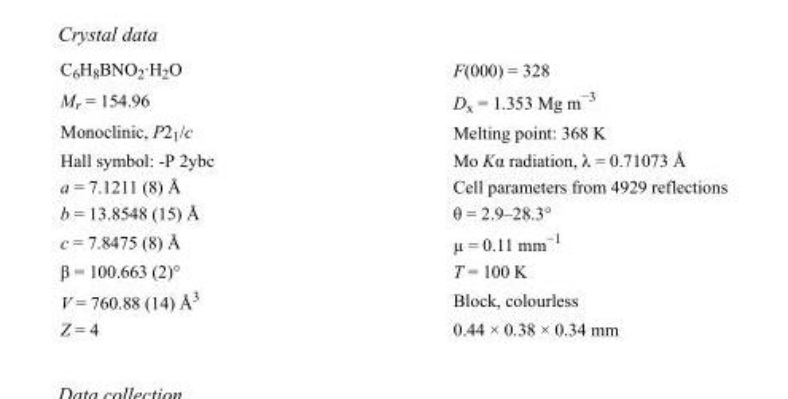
<table><tbody><tr><td>C<sub>6</sub>H<sub>8</sub>BNO<sub>2</sub>·H<sub>2</sub>O</td><td>F(000) = 328</td></tr><tr><td>M<sub>r</sub> = 154.96</td><td>D<sub>x</sub> = 1.353 Mg m<sup>−3</sup></td></tr><tr><td>Monoclinic, P2<sub>1</sub>/c</td><td>Melting point: 368 K</td></tr><tr><td>Hall symbol: -P 2ybc</td><td>Mo Kα radiation, λ = 0.71073 Å</td></tr><tr><td>a = 7.1211 (8) Å</td><td>Cell parameters from 4929 reflections</td></tr><tr><td>b = 13.8548 (15) Å</td><td>θ = 2.9–28.3°</td></tr><tr><td>c = 7.8475 (8) Å</td><td>µ = 0.11 mm<sup>−1</sup></td></tr><tr><td>β = 100.663 (2)°</td><td>T = 100 K</td></tr><tr><td>V = 760.88 (14) Å<sup>3</sup></td><td>Block, colourless</td></tr><tr><td>Z = 4</td><td>0.44 × 0.38 × 0.34 mm</td></tr></tbody></table>